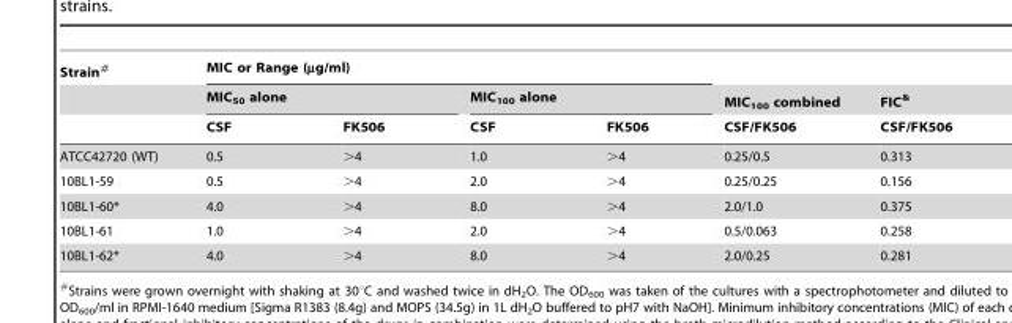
<table><thead><tr><td rowspan="3">Strain#</td><td colspan="4">MIC or Range (µµg/ml)</td><td rowspan="3">MIC<sub>100</sub> combined CSF/FK506</td><td rowspan="3">FIC&amp; CSF/FK506</td></tr><tr><td colspan="2">MIC<sub>50</sub> alone</td><td colspan="2">MIC<sub>100</sub> alone</td></tr><tr><td>CSF</td><td>FK506</td><td>CSF</td><td>FK506</td></tr></thead><tbody><tr><td>ATCC42720 (WT)</td><td>0.5</td><td>&gt;4</td><td>1.0</td><td>&gt;4</td><td>0.25/0.5</td><td>0.313</td></tr><tr><td>10BL1-59</td><td>0.5</td><td>&gt;4</td><td>2.0</td><td>&gt;4</td><td>0.25/0.25</td><td>0.156</td></tr><tr><td>10BL1-60*</td><td>4.0</td><td>&gt;4</td><td>8.0</td><td>&gt;4</td><td>2.0/1.0</td><td>0.375</td></tr><tr><td>10BL1-61</td><td>1.0</td><td>&gt;4</td><td>2.0</td><td>&gt;4</td><td>0.5/0.063</td><td>0.258</td></tr><tr><td>10BL1-62*</td><td>4.0</td><td>&gt;4</td><td>8.0</td><td>&gt;4</td><td>2.0/0.25</td><td>0.281</td></tr></tbody></table>